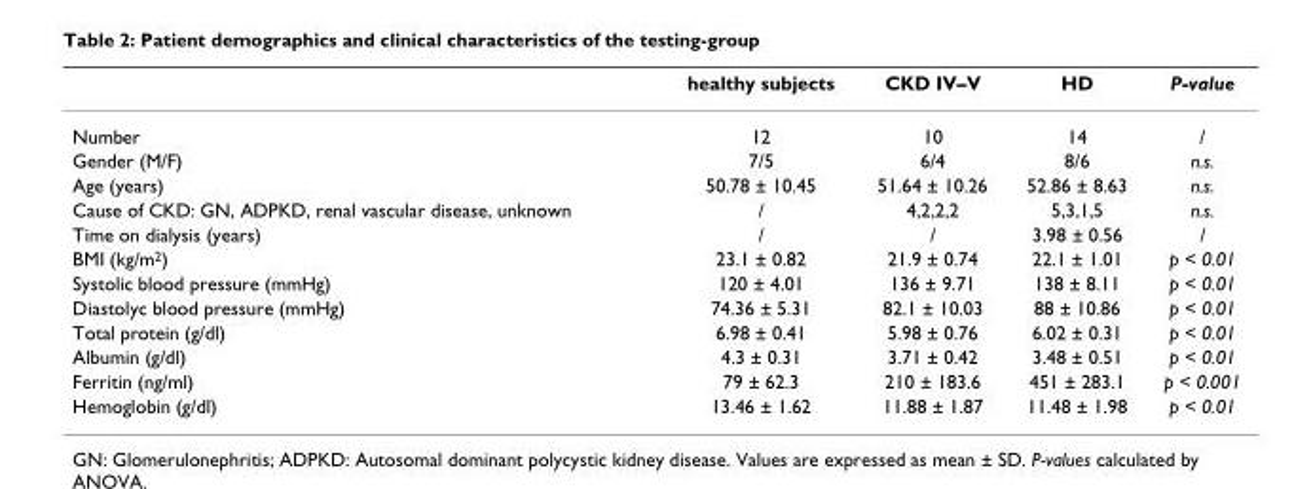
<table><thead><tr><td></td><td>healthy subjects</td><td>CKD IV–V</td><td>HD</td><td>P-value</td></tr></thead><tbody><tr><td>Number</td><td>12</td><td>10</td><td>14</td><td>/</td></tr><tr><td>Gender (M/F)</td><td>7/5</td><td>6/4</td><td>8/6</td><td>n.s.</td></tr><tr><td>Age (years)</td><td>50.78 ± 10.45</td><td>51.64 ± 10.26</td><td>52.86 ± 8.63</td><td>n.s.</td></tr><tr><td>Cause of CKD: GN, ADPKD, renal vascular disease, unknown</td><td>/</td><td>4,2,2,2</td><td>5,3,1,5</td><td>n.s.</td></tr><tr><td>Time on dialysis (years)</td><td>/</td><td>/</td><td>3.98 ± 0.56</td><td>/</td></tr><tr><td>BMI (kg/m<sup>2</sup>)</td><td>23.1 ± 0.82</td><td>21.9 ± 0.74</td><td>22.1 ± 1.01</td><td>p &lt; 0.01</td></tr><tr><td>Systolic blood pressure (mmHg)</td><td>120 ± 4.01</td><td>136 ± 9.71</td><td>138 ± 8.11</td><td>p &lt; 0.01</td></tr><tr><td>Diastolyc blood pressure (mmHg)</td><td>74.36 ± 5.31</td><td>82.1 ± 10.03</td><td>88 ± 10.86</td><td>p &lt; 0.01</td></tr><tr><td>Total protein (g/dl)</td><td>6.98 ± 0.41</td><td>5.98 ± 0.76</td><td>6.02 ± 0.31</td><td>p &lt; 0.01</td></tr><tr><td>Albumin (g/dl)</td><td>4.3 ± 0.31</td><td>3.71 ± 0.42</td><td>3.48 ± 0.51</td><td>p &lt; 0.01</td></tr><tr><td>Ferritin (ng/ml)</td><td>79 ± 62.3</td><td>210 ± 183.6</td><td>451 ± 283.1</td><td>p &lt; 0.001</td></tr><tr><td>Hemoglobin (g/dl)</td><td>13.46 ± 1.62</td><td>11.88 ± 1.87</td><td>11.48 ± 1.98</td><td>p &lt; 0.01</td></tr></tbody></table>